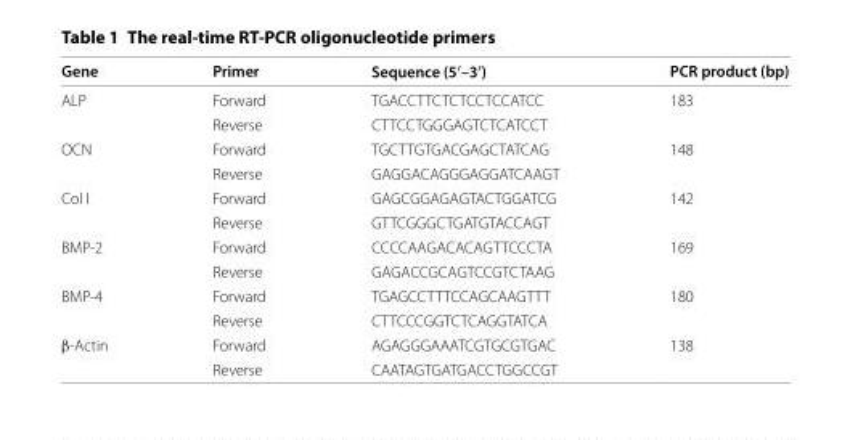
<table><thead><tr><td>Gene</td><td>Primer</td><td>Sequence (5′–3′)</td><td>PCR product (bp)</td></tr></thead><tbody><tr><td rowspan="2">ALP</td><td>Forward</td><td>TGACCTTCTCTCCTCCATCC</td><td rowspan="2">183</td></tr><tr><td>Reverse</td><td>CTTCCTGGGAGTCTCATCCT</td></tr><tr><td rowspan="2">OCN</td><td>Forward</td><td>TGCTTGTGACGAGCTATCAG</td><td rowspan="2">148</td></tr><tr><td>Reverse</td><td>GAGGACAGGGAGGATCAAGT</td></tr><tr><td rowspan="2">Col I</td><td>Forward</td><td>GAGCGGAGAGTACTGGATCG</td><td rowspan="2">142</td></tr><tr><td>Reverse</td><td>GTTCGGGCTGATGTACCAGT</td></tr><tr><td rowspan="2">BMP‑2</td><td>Forward</td><td>CCCCAAGACACAGTTCCCTA</td><td rowspan="2">169</td></tr><tr><td>Reverse</td><td>GAGACCGCAGTCCGTCTAAG</td></tr><tr><td rowspan="2">BMP‑4</td><td>Forward</td><td>TGAGCCTTTCCAGCAAGTTT</td><td rowspan="2">180</td></tr><tr><td>Reverse</td><td>CTTCCCGGTCTCAGGTATCA</td></tr><tr><td rowspan="2">β‑Actin</td><td>Forward</td><td>AGAGGGAAATCGTGCGTGAC</td><td rowspan="2">138</td></tr><tr><td>Reverse</td><td>CAATAGTGATGACCTGGCCGT</td></tr></tbody></table>